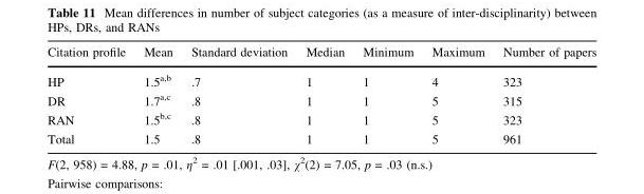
<table><thead><tr><td>Citation profile</td><td>Mean</td><td>Standard deviation</td><td>Median</td><td>Minimum</td><td>Maximum</td><td>Number of papers</td></tr></thead><tbody><tr><td>HP</td><td>1.5<sup>a,b</sup></td><td>.7</td><td>1</td><td>1</td><td>4</td><td>323</td></tr><tr><td>DR</td><td>1.7<sup>a,c</sup></td><td>.8</td><td>1</td><td>1</td><td>5</td><td>315</td></tr><tr><td>RAN</td><td>1.5<sup>b,c</sup></td><td>.8</td><td>1</td><td>1</td><td>5</td><td>323</td></tr><tr><td>Total</td><td>1.5</td><td>.8</td><td>1</td><td>1</td><td>5</td><td>961</td></tr></tbody></table>